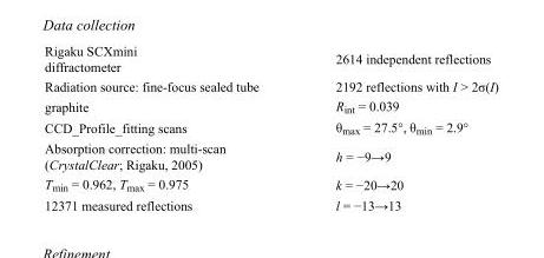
<table><tbody><tr><td>Rigaku SCXmini diffractometer</td><td>2614 independent reflections</td></tr><tr><td>Radiation source: fine-focus sealed tube</td><td>2192 reflections with I &gt; 2σ(I)</td></tr><tr><td>graphite</td><td>R<sub>int</sub> = 0.039</td></tr><tr><td>CCD_Profile_fitting scans</td><td>θ<sub>max</sub> = 27.5°, θ<sub>min</sub> = 2.9°</td></tr><tr><td>Absorption correction: multi-scan (CrystalClear; Rigaku, 2005)</td><td>h = −9→9</td></tr><tr><td>T<sub>min</sub> = 0.962, T<sub>max</sub> = 0.975</td><td>k = −20→20</td></tr><tr><td>12371 measured reflections</td><td>l = −13→13</td></tr></tbody></table>